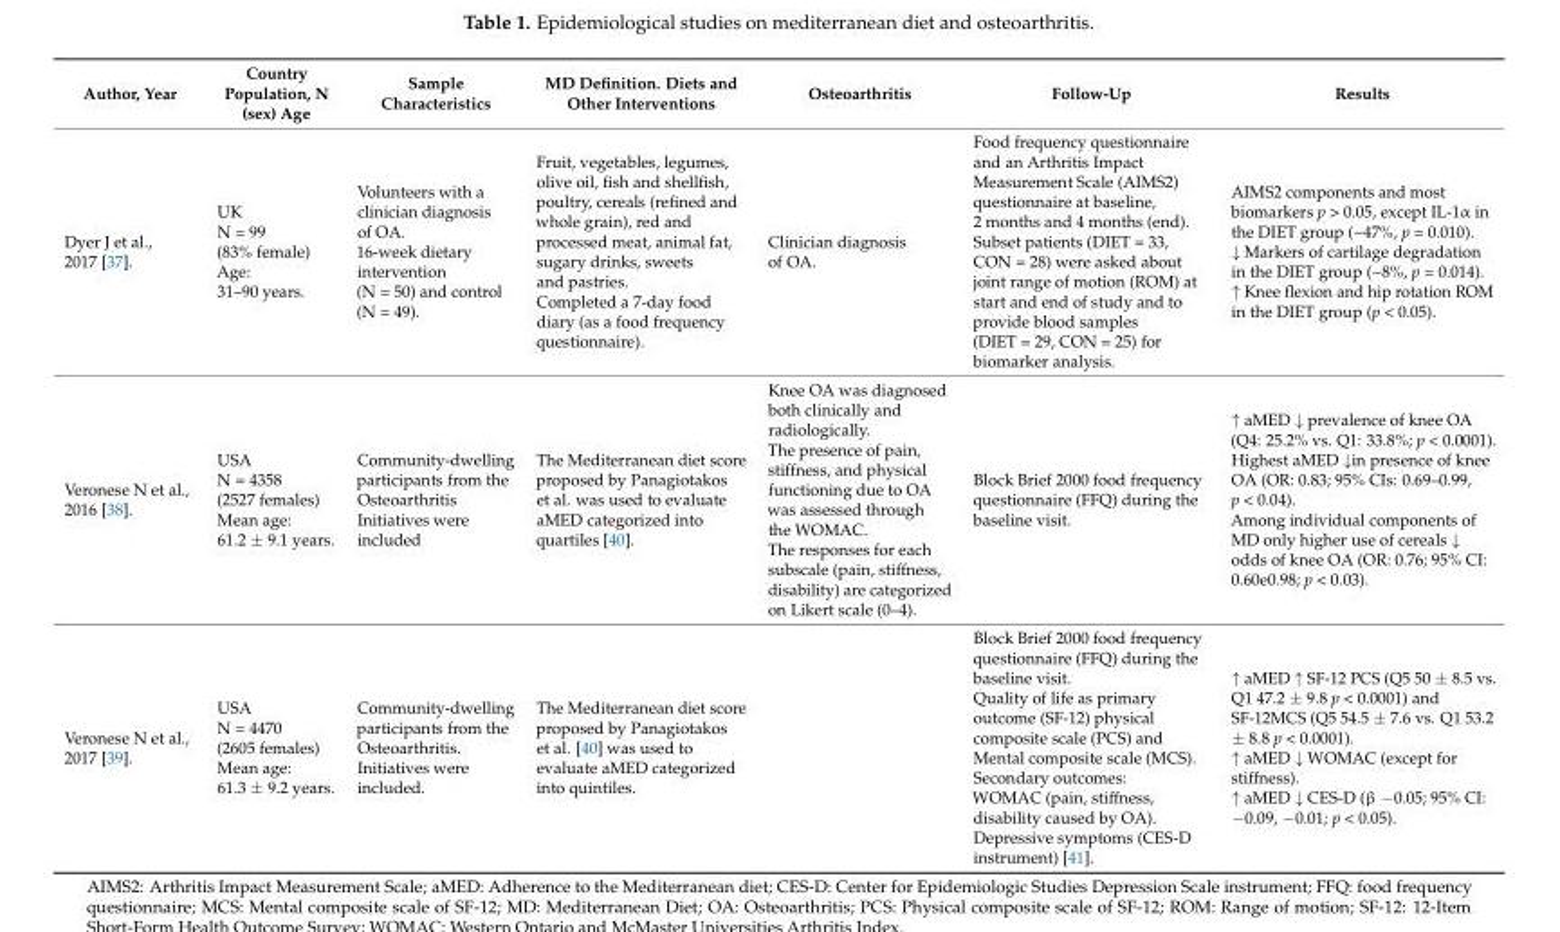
<table><thead><tr><td>Author, Year</td><td>Country Population, N (sex) Age</td><td>Sample Characteristics</td><td>MD Definition. Diets and Other Interventions</td><td>Osteoarthritis</td><td>Follow-Up</td><td>Results</td></tr></thead><tbody><tr><td>Dyer J et al., 2017 [37].</td><td>UK N = 99 (83% female) Age: 31–90 years.</td><td>Volunteers with a clinician diagnosis of OA. 16-week dietary intervention (N = 50) and control (N = 49).</td><td>Fruit, vegetables, legumes, olive oil, fish and shellfish, poultry, cereals (refined and whole grain), red and processed meat, animal fat, sugary drinks, sweets and pastries. Completed a 7-day food diary (as a food frequency questionnaire).</td><td>Clinician diagnosis of OA.</td><td>Food frequency questionnaire and an Arthritis Impact Measurement Scale (AIMS2) questionnaire at baseline, 2 months and 4 months (end). Subset patients (DIET = 33, CON = 28) were asked about joint range of motion (ROM) at start and end of study and to provide blood samples (DIET = 29, CON = 25) for biomarker analysis.</td><td>AIMS2 components and most biomarkers p &gt; 0.05, except IL-1α in the DIET group (~47%, p = 0.010). ↓ Markers of cartilage degradation in the DIET group (~8%, p = 0.014). ↑ Knee flexion and hip rotation ROM in the DIET group (p &lt; 0.05).</td></tr><tr><td>Veronese N et al., 2016 [38].</td><td>USA N = 4358 (2527 females) Mean age: 61.2 ± 9.1 years.</td><td>Community-dwelling participants from the Osteoarthritis Initiatives were included</td><td>The Mediterranean diet score proposed by Panagiotakos et al. was used to evaluate aMED categorized into quartiles [40].</td><td>Knee OA was diagnosed both clinically and radiologically. The presence of pain, stiffness, and physical functioning due to OA was assessed through the WOMAC. The responses for each subscale (pain, stiffness, disability) are categorized on Likert scale (0–4).</td><td>Block Brief 2000 food frequency questionnaire (FFQ) during the baseline visit.</td><td>↑ aMED ↓ prevalence of knee OA (Q4: 25.2% vs. Q1: 33.8%; p &lt; 0.0001). Highest aMED ↓in presence of knee OA (OR: 0.83; 95% CIs: 0.69–0.99, p &lt; 0.04). Among individual components of MD only higher use of cereals ↓ odds of knee OA (OR: 0.76; 95% CI: 0.60e0.98; p &lt; 0.03).</td></tr><tr><td>Veronese N et al., 2017 [39].</td><td>USA N = 4470 (2605 females) Mean age: 61.3 ± 9.2 years.</td><td>Community-dwelling participants from the Osteoarthritis. Initiatives were included.</td><td>The Mediterranean diet score proposed by Panagiotakos et al. [40] was used to evaluate aMED categorized into quintiles.</td><td></td><td>Block Brief 2000 food frequency questionnaire (FFQ) during the baseline visit. Quality of life as primary outcome (SF-12) physical composite scale (PCS) and Mental composite scale (MCS). Secondary outcomes: WOMAC (pain, stiffness, disability caused by OA). Depressive symptoms (CES-D instrument) [41].</td><td>↑ aMED ↑ SF-12 PCS (Q5 50 ± 8.5 vs. Q1 47.2 ± 9.8 p &lt; 0.0001) and SF-12MCS (Q5 54.5 ± 7.6 vs. Q1 53.2 ± 8.8 p &lt; 0.0001). ↑ aMED ↓ WOMAC (except for stiffness). ↑ aMED ↓ CES-D (β −0.05; 95% CI: −0.09, −0.01; p &lt; 0.05).</td></tr></tbody></table>